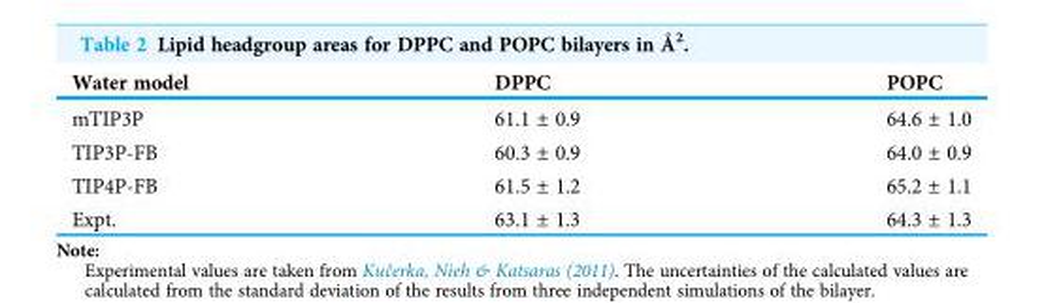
<table><thead><tr><td>Water model</td><td>DPPC</td><td>POPC</td></tr></thead><tbody><tr><td>mTIP3P</td><td>61.1 ± 0.9</td><td>64.6 ± 1.0</td></tr><tr><td>TIP3P-FB</td><td>60.3 ± 0.9</td><td>64.0 ± 0.9</td></tr><tr><td>TIP4P-FB</td><td>61.5 ± 1.2</td><td>65.2 ± 1.1</td></tr><tr><td>Expt.</td><td>63.1 ± 1.3</td><td>64.3 ± 1.3</td></tr></tbody></table>